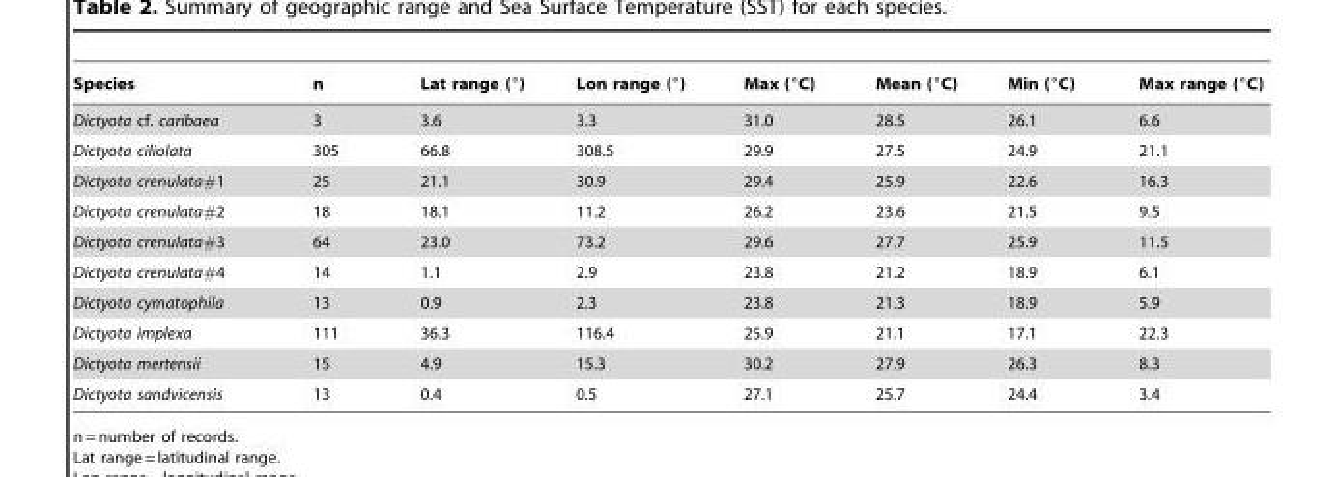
<table><thead><tr><td>Species</td><td>n</td><td>Lat range (°)</td><td>Lon range (°)</td><td>Max (°C)</td><td>Mean (°C)</td><td>Min (°C)</td><td>Max range (°C)</td></tr></thead><tbody><tr><td>Dictyota cf. caribaea</td><td>3</td><td>3.6</td><td>3.3</td><td>31.0</td><td>28.5</td><td>26.1</td><td>6.6</td></tr><tr><td>Dictyota ciliolata</td><td>305</td><td>66.8</td><td>308.5</td><td>29.9</td><td>27.5</td><td>24.9</td><td>21.1</td></tr><tr><td>Dictyota crenulata#1</td><td>25</td><td>21.1</td><td>30.9</td><td>29.4</td><td>25.9</td><td>22.6</td><td>16.3</td></tr><tr><td>Dictyota crenulata#2</td><td>18</td><td>18.1</td><td>11.2</td><td>26.2</td><td>23.6</td><td>21.5</td><td>9.5</td></tr><tr><td>Dictyota crenulata#3</td><td>64</td><td>23.0</td><td>73.2</td><td>29.6</td><td>27.7</td><td>25.9</td><td>11.5</td></tr><tr><td>Dictyota crenulata#4</td><td>14</td><td>1.1</td><td>2.9</td><td>23.8</td><td>21.2</td><td>18.9</td><td>6.1</td></tr><tr><td>Dictyota cymatophila</td><td>13</td><td>0.9</td><td>2.3</td><td>23.8</td><td>21.3</td><td>18.9</td><td>5.9</td></tr><tr><td>Dictyota implexa</td><td>111</td><td>36.3</td><td>116.4</td><td>25.9</td><td>21.1</td><td>17.1</td><td>22.3</td></tr><tr><td>Dictyota mertensii</td><td>15</td><td>4.9</td><td>15.3</td><td>30.2</td><td>27.9</td><td>26.3</td><td>8.3</td></tr><tr><td>Dictyota sandvicensis</td><td>13</td><td>0.4</td><td>0.5</td><td>27.1</td><td>25.7</td><td>24.4</td><td>3.4</td></tr></tbody></table>